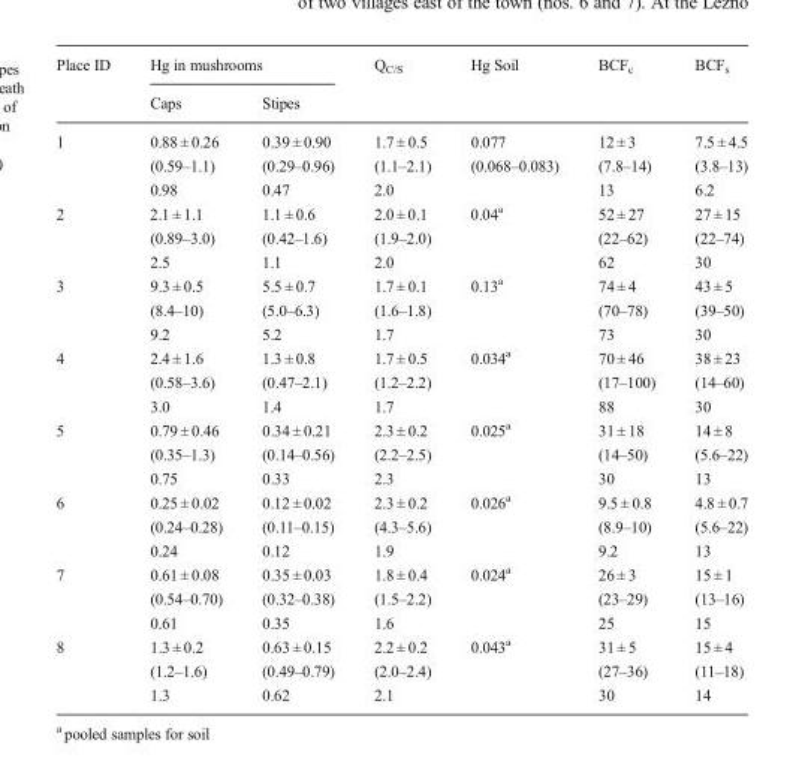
<table><thead><tr><td rowspan="2">Place ID</td><td colspan="2">Hg in mushrooms</td><td rowspan="2">Q<sub>C/S</sub></td><td rowspan="2">Hg Soil</td><td rowspan="2">BCF<sub>c</sub></td><td rowspan="2">BCF<sub>s</sub></td></tr><tr><td>Caps</td><td>Stipes</td></tr></thead><tbody><tr><td rowspan="3">1</td><td>0.88 ± 0.26</td><td>0.39 ± 0.90</td><td>1.7 ± 0.5</td><td>0.077</td><td>12 ± 3</td><td>7.5 ± 4.5</td></tr><tr><td>(0.59–1.1)</td><td>(0.29–0.96)</td><td>(1.1–2.1)</td><td>(0.068–0.083)</td><td>(7.8–14)</td><td>(3.8–13)</td></tr><tr><td>0.98</td><td>0.47</td><td>2.0</td><td></td><td>13</td><td>6.2</td></tr><tr><td rowspan="3">2</td><td>2.1 ± 1.1</td><td>1.1 ± 0.6</td><td>2.0 ± 0.1</td><td>0.04<sup>a</sup></td><td>52 ± 27</td><td>27 ± 15</td></tr><tr><td>(0.89–3.0)</td><td>(0.42–1.6)</td><td>(1.9–2.0)</td><td></td><td>(22–62)</td><td>(22–74)</td></tr><tr><td>2.5</td><td>1.1</td><td>2.0</td><td></td><td>62</td><td>30</td></tr><tr><td rowspan="3">3</td><td>9.3 ± 0.5</td><td>5.5 ± 0.7</td><td>1.7 ± 0.1</td><td>0.13<sup>a</sup></td><td>74 ± 4</td><td>43 ± 5</td></tr><tr><td>(8.4–10)</td><td>(5.0–6.3)</td><td>(1.6–1.8)</td><td></td><td>(70–78)</td><td>(39–50)</td></tr><tr><td>9.2</td><td>5.2</td><td>1.7</td><td></td><td>73</td><td>30</td></tr><tr><td rowspan="3">4</td><td>2.4 ± 1.6</td><td>1.3 ± 0.8</td><td>1.7 ± 0.5</td><td>0.034<sup>a</sup></td><td>70 ± 46</td><td>38 ± 23</td></tr><tr><td>(0.58–3.6)</td><td>(0.47–2.1)</td><td>(1.2–2.2)</td><td></td><td>(17–100)</td><td>(14–60)</td></tr><tr><td>3.0</td><td>1.4</td><td>1.7</td><td></td><td>88</td><td>30</td></tr><tr><td rowspan="3">5</td><td>0.79 ± 0.46</td><td>0.34 ± 0.21</td><td>2.3 ± 0.2</td><td>0.025<sup>a</sup></td><td>31 ± 18</td><td>14 ± 8</td></tr><tr><td>(0.35–1.3)</td><td>(0.14–0.56)</td><td>(2.2–2.5)</td><td></td><td>(14–50)</td><td>(5.6–22)</td></tr><tr><td>0.75</td><td>0.33</td><td>2.3</td><td></td><td>30</td><td>13</td></tr><tr><td rowspan="3">6</td><td>0.25 ± 0.02</td><td>0.12 ± 0.02</td><td>2.3 ± 0.2</td><td>0.026<sup>a</sup></td><td>9.5 ± 0.8</td><td>4.8 ± 0.7</td></tr><tr><td>(0.24–0.28)</td><td>(0.11–0.15)</td><td>(4.3–5.6)</td><td></td><td>(8.9–10)</td><td>(5.6–22)</td></tr><tr><td>0.24</td><td>0.12</td><td>1.9</td><td></td><td>9.2</td><td>13</td></tr><tr><td rowspan="3">7</td><td>0.61 ± 0.08</td><td>0.35 ± 0.03</td><td>1.8 ± 0.4</td><td>0.024<sup>a</sup></td><td>26 ± 3</td><td>15 ± 1</td></tr><tr><td>(0.54–0.70)</td><td>(0.32–0.38)</td><td>(1.5–2.2)</td><td></td><td>(23–29)</td><td>(13–16)</td></tr><tr><td>0.61</td><td>0.35</td><td>1.6</td><td></td><td>25</td><td>15</td></tr><tr><td rowspan="3">8</td><td>1.3 ± 0.2</td><td>0.63 ± 0.15</td><td>2.2 ± 0.2</td><td>0.043<sup>a</sup></td><td>31 ± 5</td><td>15 ± 4</td></tr><tr><td>(1.2–1.6)</td><td>(0.49–0.79)</td><td>(2.0–2.4)</td><td></td><td>(27–36)</td><td>(11–18)</td></tr><tr><td>1.3</td><td>0.62</td><td>2.1</td><td></td><td>30</td><td>14</td></tr></tbody></table>